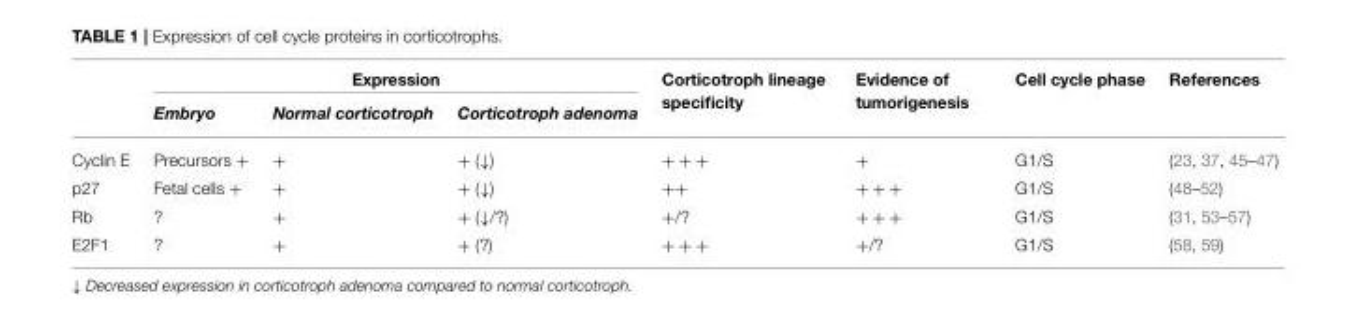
<table><thead><tr><td rowspan="2"></td><td colspan="3">Expression</td><td rowspan="2">Corticotroph lineage specificity</td><td rowspan="2">Evidence of tumorigenesis</td><td rowspan="2">Cell cycle phase</td><td rowspan="2">References</td></tr><tr><td>Embryo</td><td>Normal corticotroph</td><td>Corticotroph adenoma</td></tr></thead><tbody><tr><td>Cyclin E</td><td>Precursors +</td><td>+</td><td>+ (↓)</td><td>+ + +</td><td>+</td><td>G1/S</td><td>(23, 37, 45–47)</td></tr><tr><td>p27</td><td>Fetal cells +</td><td>+</td><td>+ (↓)</td><td>++</td><td>+ + +</td><td>G1/S</td><td>(48–52)</td></tr><tr><td>Rb</td><td>?</td><td>+</td><td>+ (↓/?)</td><td>+/?</td><td>+ + +</td><td>G1/S</td><td>(31, 53–57)</td></tr><tr><td>E2F1</td><td>?</td><td>+</td><td>+ (?)</td><td>+ + +</td><td>+/?</td><td>G1/S</td><td>(58, 59)</td></tr></tbody></table>